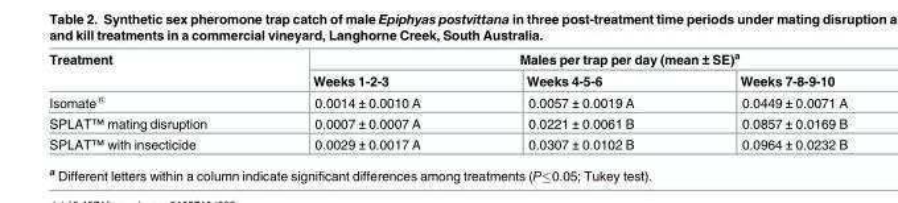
<table><thead><tr><td rowspan="2">Treatment</td><td colspan="3">Males per trap per day (mean ± SE)<sup>a</sup></td></tr><tr><td>Weeks 1-2-3</td><td>Weeks 4-5-6</td><td>Weeks 7-8-9-10</td></tr></thead><tbody><tr><td>Isomate<sup>®</sup></td><td>0.0014 ± 0.0010 A</td><td>0.0057 ± 0.0019 A</td><td>0.0449 ± 0.0071 A</td></tr><tr><td>SPLAT<sup>™</sup> mating disruption</td><td>0.0007 ± 0.0007 A</td><td>0.0221 ± 0.0061 B</td><td>0.0857 ± 0.0169 B</td></tr><tr><td>SPLAT<sup>™</sup> with insecticide</td><td>0.0029 ± 0.0017 A</td><td>0.0307 ± 0.0102 B</td><td>0.0964 ± 0.0232 B</td></tr></tbody></table>